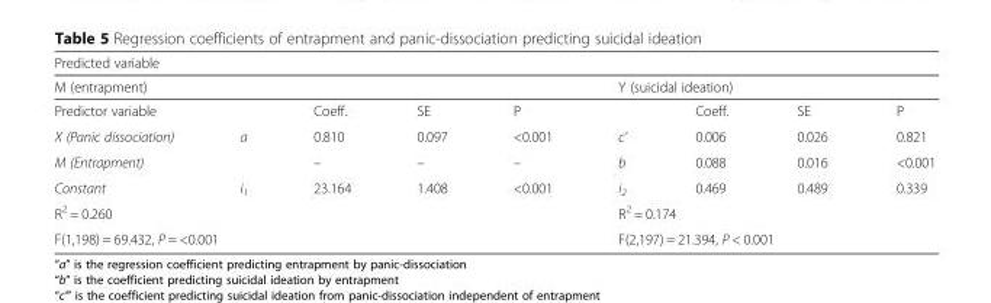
<table><thead><tr><td colspan="9">Predicted variable</td></tr><tr><td colspan="5">M (entrapment)</td><td colspan="4">Y (suicidal ideation)</td></tr><tr><td>Predictor variable</td><td></td><td>Coeff.</td><td>SE</td><td>P</td><td></td><td>Coeff.</td><td>SE</td><td>P</td></tr></thead><tbody><tr><td>X (Panic dissociation)</td><td>a</td><td>0.810</td><td>0.097</td><td>&lt;0.001</td><td>c’</td><td>0.006</td><td>0.026</td><td>0.821</td></tr><tr><td>M (Entrapment)</td><td></td><td>–</td><td>–</td><td>–</td><td>b</td><td>0.088</td><td>0.016</td><td>&lt;0.001</td></tr><tr><td>Constant</td><td>i<sub>1</sub></td><td>23.164</td><td>1.408</td><td>&lt;0.001</td><td>i<sub>2</sub></td><td>0.469</td><td>0.489</td><td>0.339</td></tr><tr><td colspan="5">R<sup>2</sup> = 0.260</td><td colspan="4">R<sup>2</sup> = 0.174</td></tr><tr><td colspan="5">F(1,198) = 69.432, P = &lt;0.001</td><td colspan="4">F(2,197) = 21.394, P &lt; 0.001</td></tr></tbody></table>